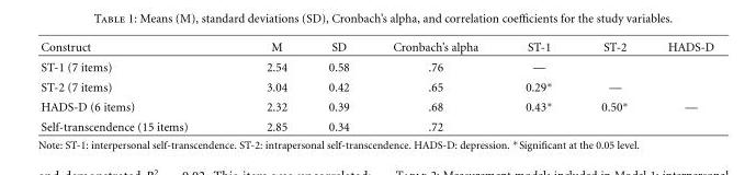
<table><thead><tr><td>Construct</td><td>M</td><td>SD</td><td>Cronbach’s alpha</td><td>ST-1</td><td>ST-2</td><td>HADS-D</td></tr></thead><tbody><tr><td>ST-1 (7 items)</td><td>2.54</td><td>0.58</td><td>.76</td><td>—</td><td></td><td></td></tr><tr><td>ST-2 (7 items)</td><td>3.04</td><td>0.42</td><td>.65</td><td>0.29∗</td><td>—</td><td></td></tr><tr><td>HADS-D (6 items)</td><td>2.32</td><td>0.39</td><td>.68</td><td>0.43∗</td><td>0.50∗</td><td>—</td></tr><tr><td>Self-transcendence (15 items)</td><td>2.85</td><td>0.34</td><td>.72</td><td></td><td></td><td></td></tr></tbody></table>